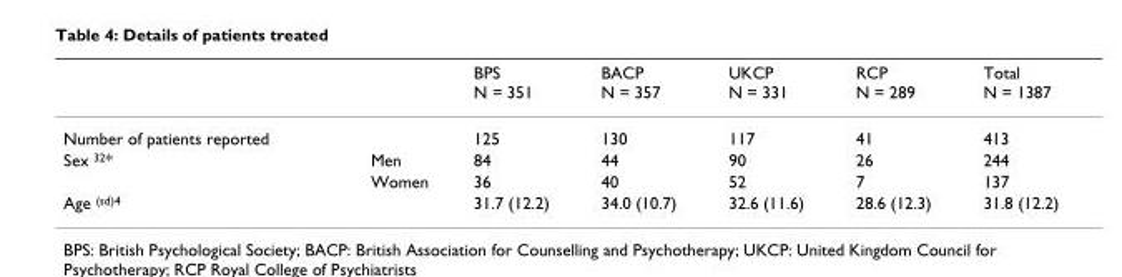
<table><thead><tr><td></td><td></td><td>BPS N = 351</td><td>BACP N = 357</td><td>UKCP N = 331</td><td>RCP N = 289</td><td>Total N = 1387</td></tr></thead><tbody><tr><td>Number of patients reported</td><td></td><td>125</td><td>130</td><td>117</td><td>41</td><td>413</td></tr><tr><td rowspan="2">Sex <sup>32</sup>*</td><td>Men</td><td>84</td><td>44</td><td>90</td><td>26</td><td>244</td></tr><tr><td>Women</td><td>36</td><td>40</td><td>52</td><td>7</td><td>137</td></tr><tr><td>Age <sup>(sd)4</sup></td><td></td><td>31.7 (12.2)</td><td>34.0 (10.7)</td><td>32.6 (11.6)</td><td>28.6 (12.3)</td><td>31.8 (12.2)</td></tr></tbody></table>